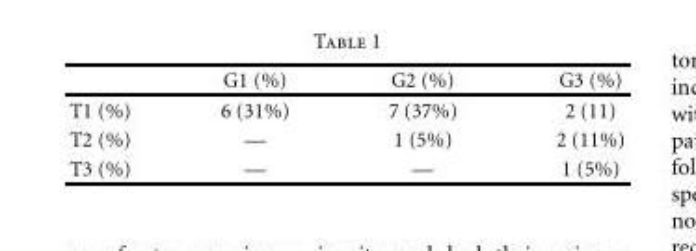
<table><thead><tr><td></td><td>G1 (%)</td><td>G2 (%)</td><td>G3 (%)</td></tr></thead><tbody><tr><td>T1 (%)</td><td>6 (31%)</td><td>7 (37%)</td><td>2 (11)</td></tr><tr><td>T2 (%)</td><td>—</td><td>1 (5%)</td><td>2 (11%)</td></tr><tr><td>T3 (%)</td><td>—</td><td>—</td><td>1 (5%)</td></tr></tbody></table>